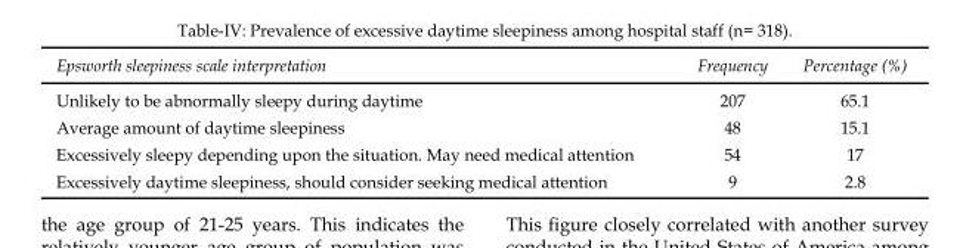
<table><thead><tr><td>Epsworth sleepiness scale interpretation</td><td>Frequency</td><td>Percentage (%)</td></tr></thead><tbody><tr><td>Unlikely to be abnormally sleepy during daytime</td><td>207</td><td>65.1</td></tr><tr><td>Average amount of daytime sleepiness</td><td>48</td><td>15.1</td></tr><tr><td>Excessively sleepy depending upon the situation. May need medical attention</td><td>54</td><td>17</td></tr><tr><td>Excessively daytime sleepiness, should consider seeking medical attention</td><td>9</td><td>2.8</td></tr></tbody></table>